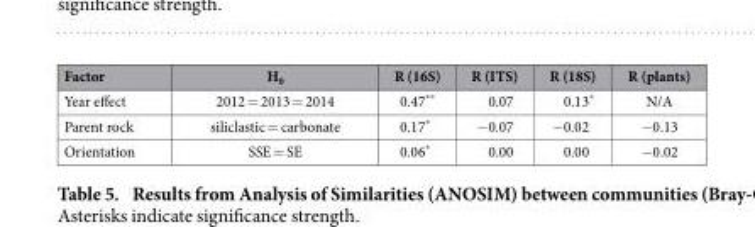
<table><thead><tr><td>Factor</td><td>H<sub>0</sub></td><td>R (16S)</td><td>R (ITS)</td><td>R (18S)</td><td>R (plants)</td></tr></thead><tbody><tr><td>Year effect</td><td>2012 = 2013 = 2014</td><td>0.47**</td><td>0.07</td><td>0.13*</td><td>N/A</td></tr><tr><td>Parent rock</td><td>siliclastic = carbonate</td><td>0.17*</td><td>− 0.07</td><td>− 0.02</td><td>− 0.13</td></tr><tr><td>Orientation</td><td>SSE = SE</td><td>0.06*</td><td>0.00</td><td>0.00</td><td>− 0.02</td></tr></tbody></table>